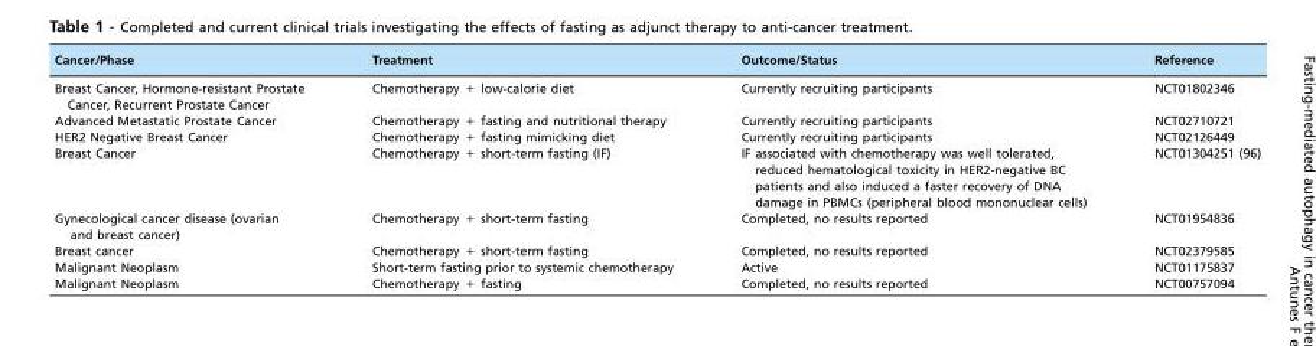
<table><thead><tr><td>Cancer/Phase</td><td>Treatment</td><td>Outcome/Status</td><td>Reference</td></tr></thead><tbody><tr><td>Breast Cancer, Hormone-resistant Prostate Cancer, Recurrent Prostate Cancer</td><td>Chemotherapy + low-calorie diet</td><td>Currently recruiting participants</td><td>NCT01802346</td></tr><tr><td>Advanced Metastatic Prostate Cancer</td><td>Chemotherapy + fasting and nutritional therapy</td><td>Currently recruiting participants</td><td>NCT02710721</td></tr><tr><td>HER2 Negative Breast Cancer</td><td>Chemotherapy + fasting mimicking diet</td><td>Currently recruiting participants</td><td>NCT02126449</td></tr><tr><td>Breast Cancer</td><td>Chemotherapy + short-term fasting (IF)</td><td>IF associated with chemotherapy was well tolerated, reduced hematological toxicity in HER2-negative BC patients and also induced a faster recovery of DNA damage in PBMCs (peripheral blood mononuclear cells)</td><td>NCT01304251 (96)</td></tr><tr><td>Gynecological cancer disease (ovarian and breast cancer)</td><td>Chemotherapy + short-term fasting</td><td>Completed, no results reported</td><td>NCT01954836</td></tr><tr><td>Breast cancer</td><td>Chemotherapy + short-term fasting</td><td>Completed, no results reported</td><td>NCT02379585</td></tr><tr><td>Malignant Neoplasm</td><td>Short-term fasting prior to systemic chemotherapy</td><td>Active</td><td>NCT01175837</td></tr><tr><td>Malignant Neoplasm</td><td>Chemotherapy + fasting</td><td>Completed, no results reported</td><td>NCT00757094</td></tr></tbody></table>